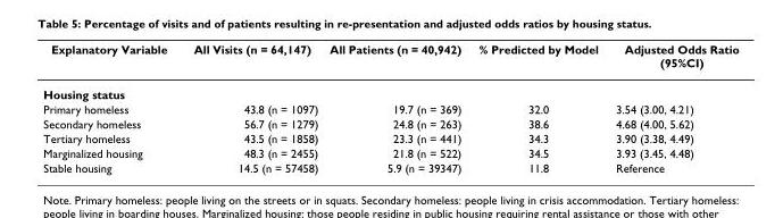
<table><thead><tr><td>Explanatory Variable</td><td>All Visits (n = 64,147)</td><td>All Patients (n = 40,942)</td><td>% Predicted by Model</td><td>Adjusted Odds Ratio (95%CI)</td></tr></thead><tbody><tr><td colspan="5">Housing status</td></tr><tr><td>Primary homeless</td><td>43.8 (n = 1097)</td><td>19.7 (n = 369)</td><td>32.0</td><td>3.54 (3.00, 4.21)</td></tr><tr><td>Secondary homeless</td><td>56.7 (n = 1279)</td><td>24.8 (n = 263)</td><td>38.6</td><td>4.68 (4.00, 5.62)</td></tr><tr><td>Tertiary homeless</td><td>43.5 (n = 1858)</td><td>23.3 (n = 441)</td><td>34.3</td><td>3.90 (3.38, 4.49)</td></tr><tr><td>Marginalized housing</td><td>48.3 (n = 2455)</td><td>21.8 (n = 522)</td><td>34.5</td><td>3.93 (3.45, 4.48)</td></tr><tr><td>Stable housing</td><td>14.5 (n = 57458)</td><td>5.9 (n = 39347)</td><td>11.8</td><td>Reference</td></tr></tbody></table>